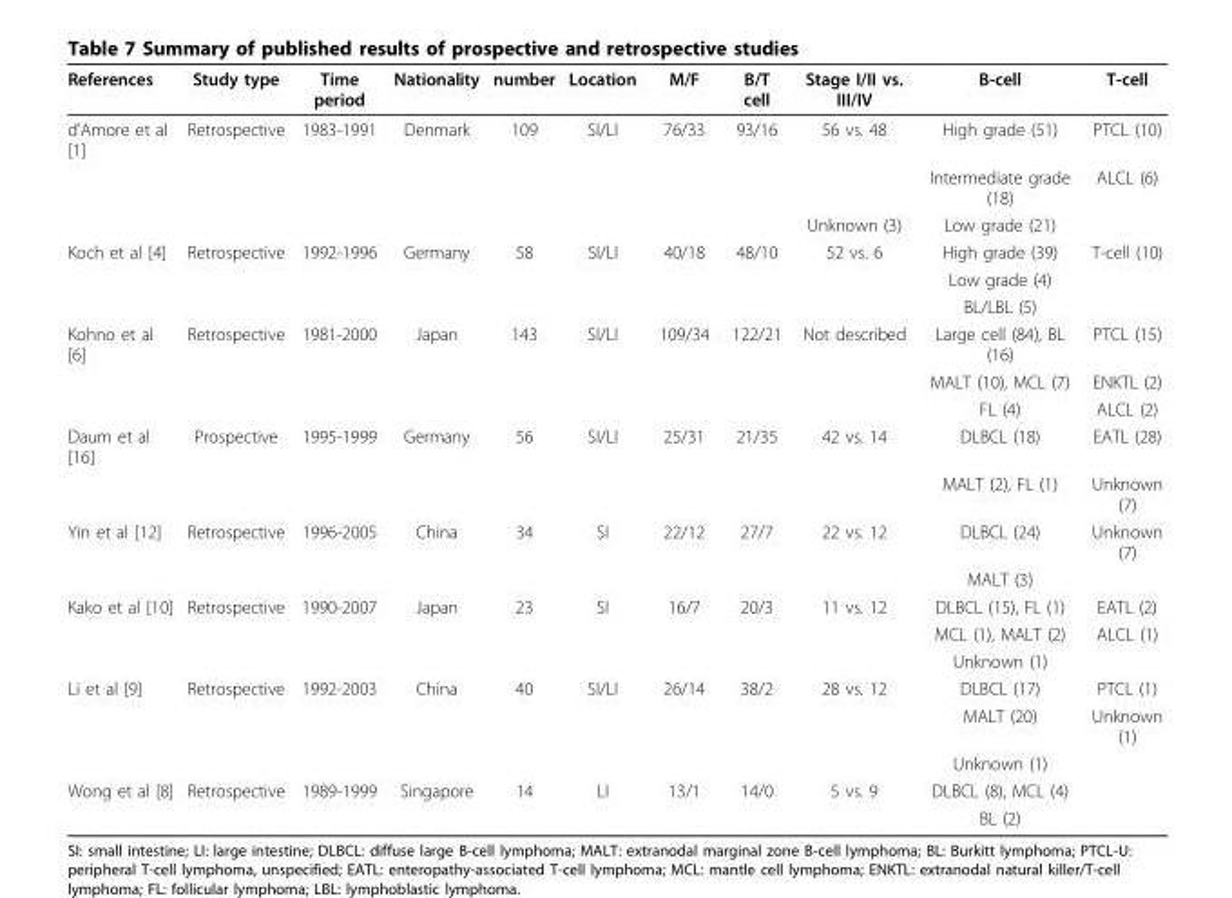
<table><thead><tr><td>References</td><td>Study type</td><td>Time period</td><td>Nationality</td><td>number</td><td>Location</td><td>M/F</td><td>B/T cell</td><td>Stage I/II vs. III/IV</td><td>B-cell</td><td>T-cell</td></tr></thead><tbody><tr><td rowspan="3">d’Amore et al [1]</td><td>Retrospective</td><td>1983-1991</td><td>Denmark</td><td>109</td><td>SI/LI</td><td>76/33</td><td>93/16</td><td>56 vs. 48</td><td>High grade (51)</td><td>PTCL (10)</td></tr><tr><td></td><td></td><td></td><td></td><td></td><td></td><td></td><td></td><td>Intermediate grade (18)</td><td>ALCL (6)</td></tr><tr><td></td><td></td><td></td><td></td><td></td><td></td><td></td><td>Unknown (3)</td><td>Low grade (21)</td><td></td></tr><tr><td rowspan="3">Koch et al [4]</td><td>Retrospective</td><td>1992-1996</td><td>Germany</td><td>58</td><td>SI/LI</td><td>40/18</td><td>48/10</td><td>52 vs. 6</td><td>High grade (39)</td><td>T-cell (10)</td></tr><tr><td></td><td></td><td></td><td></td><td></td><td></td><td></td><td></td><td>Low grade (4)</td><td></td></tr><tr><td></td><td></td><td></td><td></td><td></td><td></td><td></td><td></td><td>BL/LBL (5)</td><td></td></tr><tr><td rowspan="3">Kohno et al [6]</td><td>Retrospective</td><td>1981-2000</td><td>Japan</td><td>143</td><td>SI/LI</td><td>109/34</td><td>122/21</td><td>Not described</td><td>Large cell (84), BL (16)</td><td>PTCL (15)</td></tr><tr><td></td><td></td><td></td><td></td><td></td><td></td><td></td><td></td><td>MALT (10), MCL (7)</td><td>ENKTL (2)</td></tr><tr><td></td><td></td><td></td><td></td><td></td><td></td><td></td><td></td><td>FL (4)</td><td>ALCL (2)</td></tr><tr><td rowspan="2">Daum et al [16]</td><td>Prospective</td><td>1995-1999</td><td>Germany</td><td>56</td><td>SI/LI</td><td>25/31</td><td>21/35</td><td>42 vs. 14</td><td>DLBCL (18)</td><td>EATL (28)</td></tr><tr><td></td><td></td><td></td><td></td><td></td><td></td><td></td><td></td><td>MALT (2), FL (1)</td><td>Unknown (7)</td></tr><tr><td rowspan="2">Yin et al [12]</td><td>Retrospective</td><td>1996-2005</td><td>China</td><td>34</td><td>SI</td><td>22/12</td><td>27/7</td><td>22 vs. 12</td><td>DLBCL (24)</td><td>Unknown (7)</td></tr><tr><td></td><td></td><td></td><td></td><td></td><td></td><td></td><td></td><td>MALT (3)</td><td></td></tr><tr><td rowspan="3">Kako et al [10]</td><td>Retrospective</td><td>1990-2007</td><td>Japan</td><td>23</td><td>SI</td><td>16/7</td><td>20/3</td><td>11 vs. 12</td><td>DLBCL (15), FL (1)</td><td>EATL (2)</td></tr><tr><td></td><td></td><td></td><td></td><td></td><td></td><td></td><td></td><td>MCL (1), MALT (2)</td><td>ALCL (1)</td></tr><tr><td></td><td></td><td></td><td></td><td></td><td></td><td></td><td></td><td>Unknown (1)</td><td></td></tr><tr><td rowspan="3">Li et al [9]</td><td>Retrospective</td><td>1992-2003</td><td>China</td><td>40</td><td>SI/LI</td><td>26/14</td><td>38/2</td><td>28 vs. 12</td><td>DLBCL (17)</td><td>PTCL (1)</td></tr><tr><td></td><td></td><td></td><td></td><td></td><td></td><td></td><td></td><td>MALT (20)</td><td>Unknown (1)</td></tr><tr><td></td><td></td><td></td><td></td><td></td><td></td><td></td><td></td><td>Unknown (1)</td><td></td></tr><tr><td rowspan="2">Wong et al [8]</td><td>Retrospective</td><td>1989-1999</td><td>Singapore</td><td>14</td><td>LI</td><td>13/1</td><td>14/0</td><td>5 vs. 9</td><td>DLBCL (8), MCL (4)</td><td></td></tr><tr><td></td><td></td><td></td><td></td><td></td><td></td><td></td><td></td><td>BL (2)</td><td></td></tr></tbody></table>